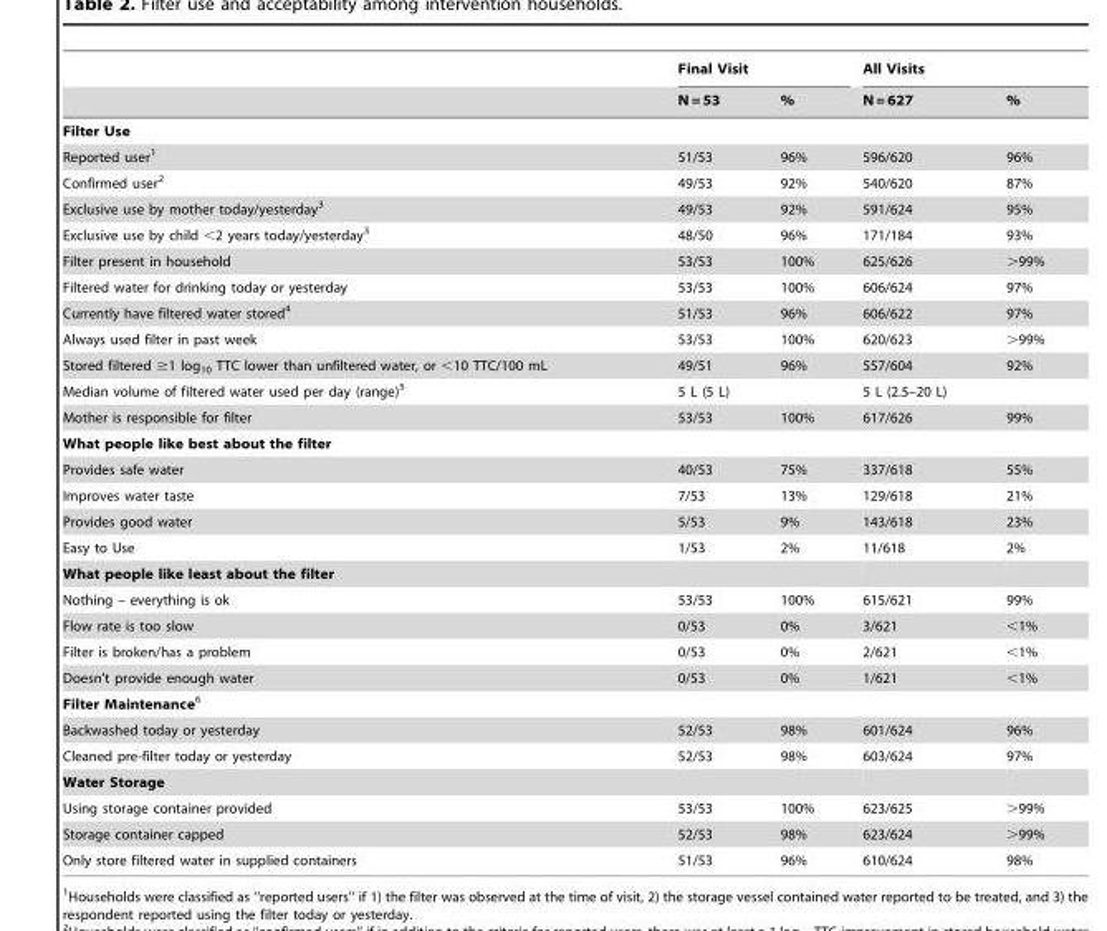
<table><thead><tr><td rowspan="2"></td><td colspan="2">Final Visit</td><td colspan="2">All Visits</td></tr><tr><td>N = 53</td><td>%</td><td>N = 627</td><td>%</td></tr></thead><tbody><tr><td colspan="5">Filter Use</td></tr><tr><td>Reported user<sup>1</sup></td><td>51/53</td><td>96%</td><td>596/620</td><td>96%</td></tr><tr><td>Confirmed user<sup>2</sup></td><td>49/53</td><td>92%</td><td>540/620</td><td>87%</td></tr><tr><td>Exclusive use by mother today/yesterday<sup>3</sup></td><td>49/53</td><td>92%</td><td>591/624</td><td>95%</td></tr><tr><td>Exclusive use by child &lt;2 years today/yesterday<sup>3</sup></td><td>48/50</td><td>96%</td><td>171/184</td><td>93%</td></tr><tr><td>Filter present in household</td><td>53/53</td><td>100%</td><td>625/626</td><td>&gt;99%</td></tr><tr><td>Filtered water for drinking today or yesterday</td><td>53/53</td><td>100%</td><td>606/624</td><td>97%</td></tr><tr><td>Currently have filtered water stored<sup>4</sup></td><td>51/53</td><td>96%</td><td>606/622</td><td>97%</td></tr><tr><td>Always used filter in past week</td><td>53/53</td><td>100%</td><td>620/623</td><td>&gt;99%</td></tr><tr><td>Stored filtered ≥1 log<sub>10</sub> TTC lower than unfiltered water, or &lt;10 TTC/100 mL</td><td>49/51</td><td>96%</td><td>557/604</td><td>92%</td></tr><tr><td>Median volume of filtered water used per day (range)<sup>5</sup></td><td>5 L (5 L)</td><td></td><td>5 L (2.5–20 L)</td><td></td></tr><tr><td>Mother is responsible for filter</td><td>53/53</td><td>100%</td><td>617/626</td><td>99%</td></tr><tr><td colspan="5">What people like best about the filter</td></tr><tr><td>Provides safe water</td><td>40/53</td><td>75%</td><td>337/618</td><td>55%</td></tr><tr><td>Improves water taste</td><td>7/53</td><td>13%</td><td>129/618</td><td>21%</td></tr><tr><td>Provides good water</td><td>5/53</td><td>9%</td><td>143/618</td><td>23%</td></tr><tr><td>Easy to Use</td><td>1/53</td><td>2%</td><td>11/618</td><td>2%</td></tr><tr><td colspan="5">What people like least about the filter</td></tr><tr><td>Nothing – everything is ok</td><td>53/53</td><td>100%</td><td>615/621</td><td>99%</td></tr><tr><td>Flow rate is too slow</td><td>0/53</td><td>0%</td><td>3/621</td><td>&lt;1%</td></tr><tr><td>Filter is broken/has a problem</td><td>0/53</td><td>0%</td><td>2/621</td><td>&lt;1%</td></tr><tr><td>Doesn’t provide enough water</td><td>0/53</td><td>0%</td><td>1/621</td><td>&lt;1%</td></tr><tr><td colspan="5">Filter Maintenance6</td></tr><tr><td>Backwashed today or yesterday</td><td>52/53</td><td>98%</td><td>601/624</td><td>96%</td></tr><tr><td>Cleaned pre-filter today or yesterday</td><td>52/53</td><td>98%</td><td>603/624</td><td>97%</td></tr><tr><td colspan="5">Water Storage</td></tr><tr><td>Using storage container provided</td><td>53/53</td><td>100%</td><td>623/625</td><td>&gt;99%</td></tr><tr><td>Storage container capped</td><td>52/53</td><td>98%</td><td>623/624</td><td>&gt;99%</td></tr><tr><td>Only store filtered water in supplied containers</td><td>51/53</td><td>96%</td><td>610/624</td><td>98%</td></tr></tbody></table>